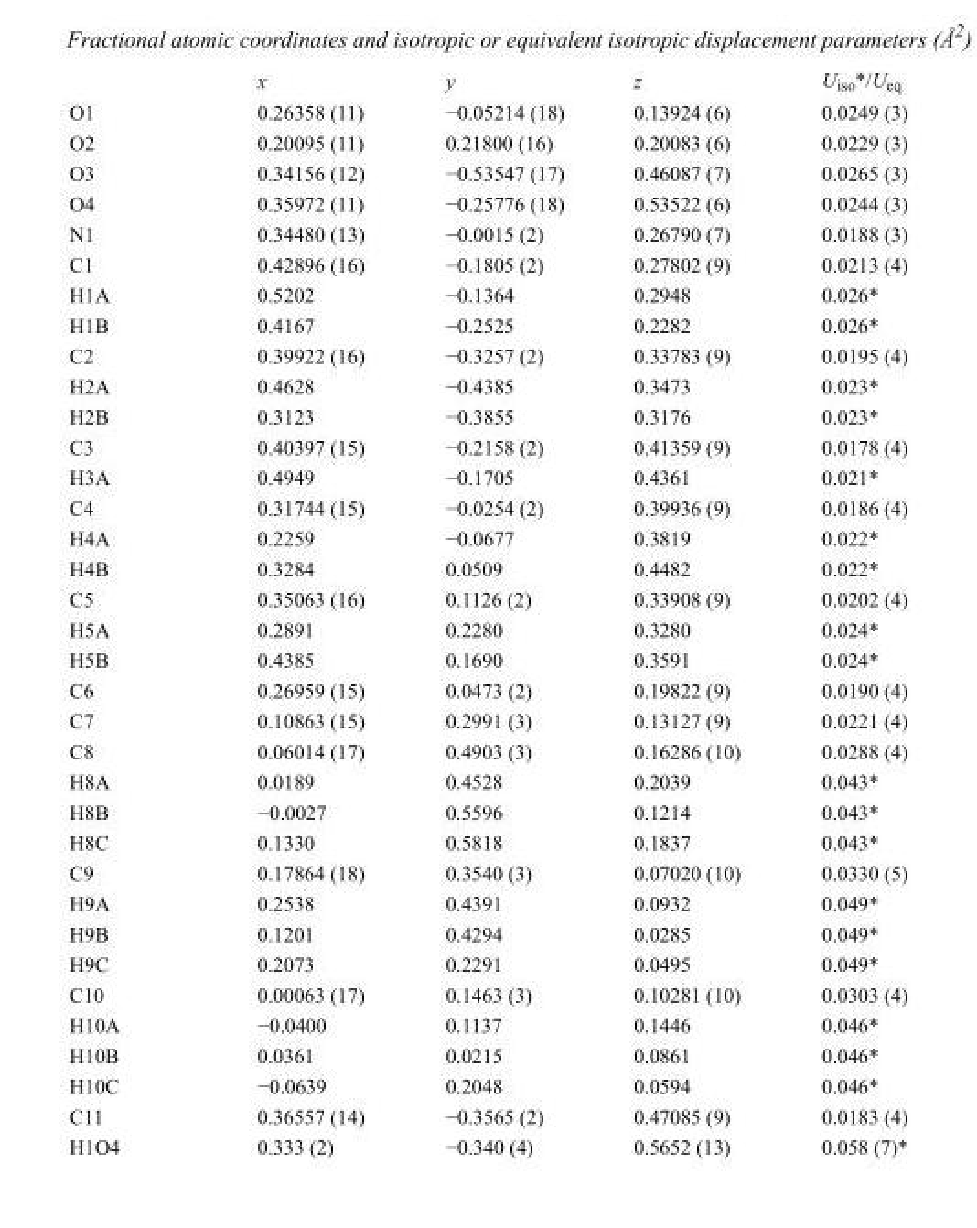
<table><thead><tr><td></td><td>x</td><td>y</td><td>z</td><td>U<sub>iso</sub>*/U<sub>eq</sub></td></tr></thead><tbody><tr><td>O1</td><td>0.26358 (11)</td><td>−0.05214 (18)</td><td>0.13924 (6)</td><td>0.0249 (3)</td></tr><tr><td>O2</td><td>0.20095 (11)</td><td>0.21800 (16)</td><td>0.20083 (6)</td><td>0.0229 (3)</td></tr><tr><td>O3</td><td>0.34156 (12)</td><td>−0.53547 (17)</td><td>0.46087 (7)</td><td>0.0265 (3)</td></tr><tr><td>O4</td><td>0.35972 (11)</td><td>−0.25776 (18)</td><td>0.53522 (6)</td><td>0.0244 (3)</td></tr><tr><td>N1</td><td>0.34480 (13)</td><td>−0.0015 (2)</td><td>0.26790 (7)</td><td>0.0188 (3)</td></tr><tr><td>C1</td><td>0.42896 (16)</td><td>−0.1805 (2)</td><td>0.27802 (9)</td><td>0.0213 (4)</td></tr><tr><td>H1A</td><td>0.5202</td><td>−0.1364</td><td>0.2948</td><td>0.026*</td></tr><tr><td>H1B</td><td>0.4167</td><td>−0.2525</td><td>0.2282</td><td>0.026*</td></tr><tr><td>C2</td><td>0.39922 (16)</td><td>−0.3257 (2)</td><td>0.33783 (9)</td><td>0.0195 (4)</td></tr><tr><td>H2A</td><td>0.4628</td><td>−0.4385</td><td>0.3473</td><td>0.023*</td></tr><tr><td>H2B</td><td>0.3123</td><td>−0.3855</td><td>0.3176</td><td>0.023*</td></tr><tr><td>C3</td><td>0.40397 (15)</td><td>−0.2158 (2)</td><td>0.41359 (9)</td><td>0.0178 (4)</td></tr><tr><td>H3A</td><td>0.4949</td><td>−0.1705</td><td>0.4361</td><td>0.021*</td></tr><tr><td>C4</td><td>0.31744 (15)</td><td>−0.0254 (2)</td><td>0.39936 (9)</td><td>0.0186 (4)</td></tr><tr><td>H4A</td><td>0.2259</td><td>−0.0677</td><td>0.3819</td><td>0.022*</td></tr><tr><td>H4B</td><td>0.3284</td><td>0.0509</td><td>0.4482</td><td>0.022*</td></tr><tr><td>C5</td><td>0.35063 (16)</td><td>0.1126 (2)</td><td>0.33908 (9)</td><td>0.0202 (4)</td></tr><tr><td>H5A</td><td>0.2891</td><td>0.2280</td><td>0.3280</td><td>0.024*</td></tr><tr><td>H5B</td><td>0.4385</td><td>0.1690</td><td>0.3591</td><td>0.024*</td></tr><tr><td>C6</td><td>0.26959 (15)</td><td>0.0473 (2)</td><td>0.19822 (9)</td><td>0.0190 (4)</td></tr><tr><td>C7</td><td>0.10863 (15)</td><td>0.2991 (3)</td><td>0.13127 (9)</td><td>0.0221 (4)</td></tr><tr><td>C8</td><td>0.06014 (17)</td><td>0.4903 (3)</td><td>0.16286 (10)</td><td>0.0288 (4)</td></tr><tr><td>H8A</td><td>0.0189</td><td>0.4528</td><td>0.2039</td><td>0.043*</td></tr><tr><td>H8B</td><td>−0.0027</td><td>0.5596</td><td>0.1214</td><td>0.043*</td></tr><tr><td>H8C</td><td>0.1330</td><td>0.5818</td><td>0.1837</td><td>0.043*</td></tr><tr><td>C9</td><td>0.17864 (18)</td><td>0.3540 (3)</td><td>0.07020 (10)</td><td>0.0330 (5)</td></tr><tr><td>H9A</td><td>0.2538</td><td>0.4391</td><td>0.0932</td><td>0.049*</td></tr><tr><td>H9B</td><td>0.1201</td><td>0.4294</td><td>0.0285</td><td>0.049*</td></tr><tr><td>H9C</td><td>0.2073</td><td>0.2291</td><td>0.0495</td><td>0.049*</td></tr><tr><td>C10</td><td>0.00063 (17)</td><td>0.1463 (3)</td><td>0.10281 (10)</td><td>0.0303 (4)</td></tr><tr><td>H10A</td><td>−0.0400</td><td>0.1137</td><td>0.1446</td><td>0.046*</td></tr><tr><td>H10B</td><td>0.0361</td><td>0.0215</td><td>0.0861</td><td>0.046*</td></tr><tr><td>H10C</td><td>−0.0639</td><td>0.2048</td><td>0.0594</td><td>0.046*</td></tr><tr><td>C11</td><td>0.36557 (14)</td><td>−0.3565 (2)</td><td>0.47085 (9)</td><td>0.0183 (4)</td></tr><tr><td>H1O4</td><td>0.333 (2)</td><td>−0.340 (4)</td><td>0.5652 (13)</td><td>0.058 (7)*</td></tr></tbody></table>